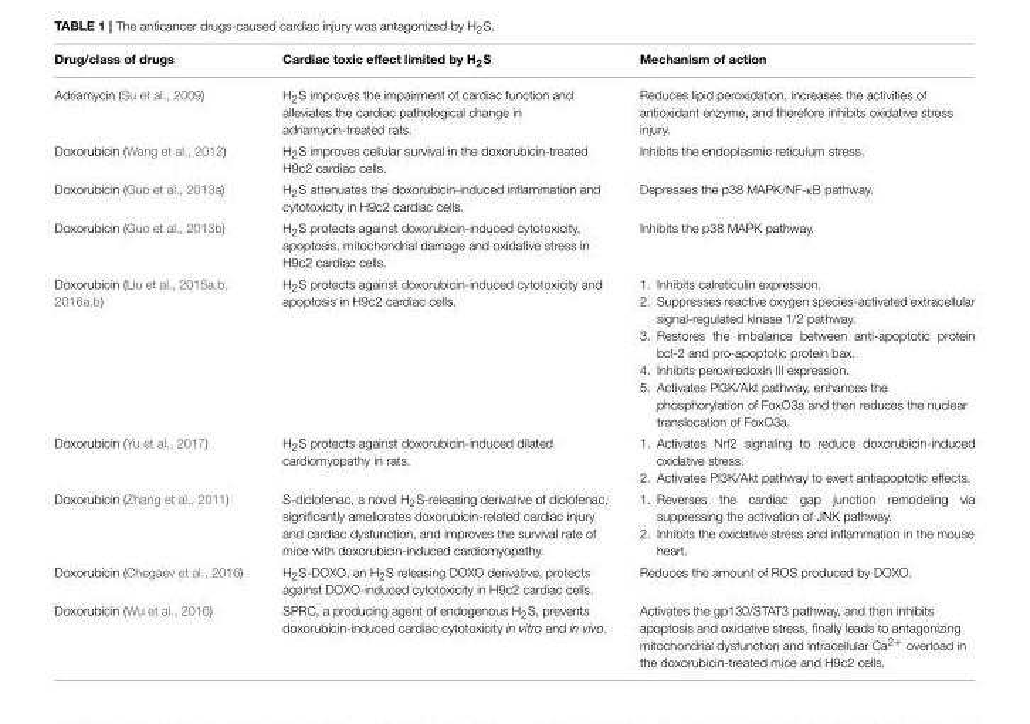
<table><thead><tr><td>Drug/class of drugs</td><td>Cardiac toxic effect limited by H<sub>2</sub>S</td><td>Mechanism of action</td></tr></thead><tbody><tr><td>Adriamycin (Su et al., 2009)</td><td>H<sub>2</sub>S improves the impairment of cardiac function and alleviates the cardiac pathological change in adriamycin-treated rats.</td><td>Reduces lipid peroxidation, increases the activities of antioxidant enzyme, and therefore inhibits oxidative stress injury.</td></tr><tr><td>Doxorubicin (Wang et al., 2012)</td><td>H<sub>2</sub>S improves cellular survival in the doxorubicin-treated H9c2 cardiac cells.</td><td>Inhibits the endoplasmic reticulum stress.</td></tr><tr><td>Doxorubicin (Guo et al., 2013a)</td><td>H<sub>2</sub>S attenuates the doxorubicin-induced inflammation and cytotoxicity in H9c2 cardiac cells.</td><td>Depresses the p38 MAPK/NF-κB pathway.</td></tr><tr><td>Doxorubicin (Guo et al., 2013b)</td><td>H<sub>2</sub>S protects against doxorubicin-induced cytotoxicity, apoptosis, mitochondrial damage and oxidative stress in H9c2 cardiac cells.</td><td>Inhibits the p38 MAPK pathway.</td></tr><tr><td>Doxorubicin (Liu et al., 2015a,b, 2016a,b)</td><td>H<sub>2</sub>S protects against doxorubicin-induced cytotoxicity and apoptosis in H9c2 cardiac cells.</td><td>1. Inhibits calreticulin expression. 2. Suppresses reactive oxygen species-activated extracellular signal-regulated kinase 1/2 pathway. 3. Restores the imbalance between anti-apoptotic protein bcl-2 and pro-apoptotic protein bax. 4. Inhibits peroxiredoxin III expression. 5. Activates PI3K/Akt pathway, enhances the phosphorylation of FoxO3a and then reduces the nuclear translocation of FoxO3a.</td></tr><tr><td>Doxorubicin (Yu et al., 2017)</td><td>H<sub>2</sub>S protects against doxorubicin-induced dilated cardiomyopathy in rats.</td><td>1. Activates Nrf2 signaling to reduce doxorubicin-induced oxidative stress. 2. Activates PI3K/Akt pathway to exert antiapoptotic effects.</td></tr><tr><td>Doxorubicin (Zhang et al., 2011)</td><td>S-diclofenac, a novel H<sub>2</sub>S-releasing derivative of diclofenac, significantly ameliorates doxorubicin-related cardiac injury and cardiac dysfunction, and improves the survival rate of mice with doxorubicin-induced cardiomyopathy.</td><td>1. Reverses the cardiac gap junction remodeling via suppressing the activation of JNK pathway. 2. Inhibits the oxidative stress and inflammation in the mouse heart.</td></tr><tr><td>Doxorubicin (Chegaev et al., 2016)</td><td>H<sub>2</sub>S-DOXO, an H<sub>2</sub>S releasing DOXO derivative, protects against DOXO-induced cytotoxicity in H9c2 cardiac cells.</td><td>Reduces the amount of ROS produced by DOXO.</td></tr><tr><td>Doxorubicin (Wu et al., 2016)</td><td>SPRC, a producing agent of endogenous H<sub>2</sub>S, prevents doxorubicin-induced cardiac cytotoxicity in vitro and in vivo.</td><td>Activates the gp130/STAT3 pathway, and then inhibits apoptosis and oxidative stress, finally leads to antagonizing mitochondrial dysfunction and intracellular Ca<sup>2+</sup> overload in the doxorubicin-treated mice and H9c2 cells.</td></tr></tbody></table>